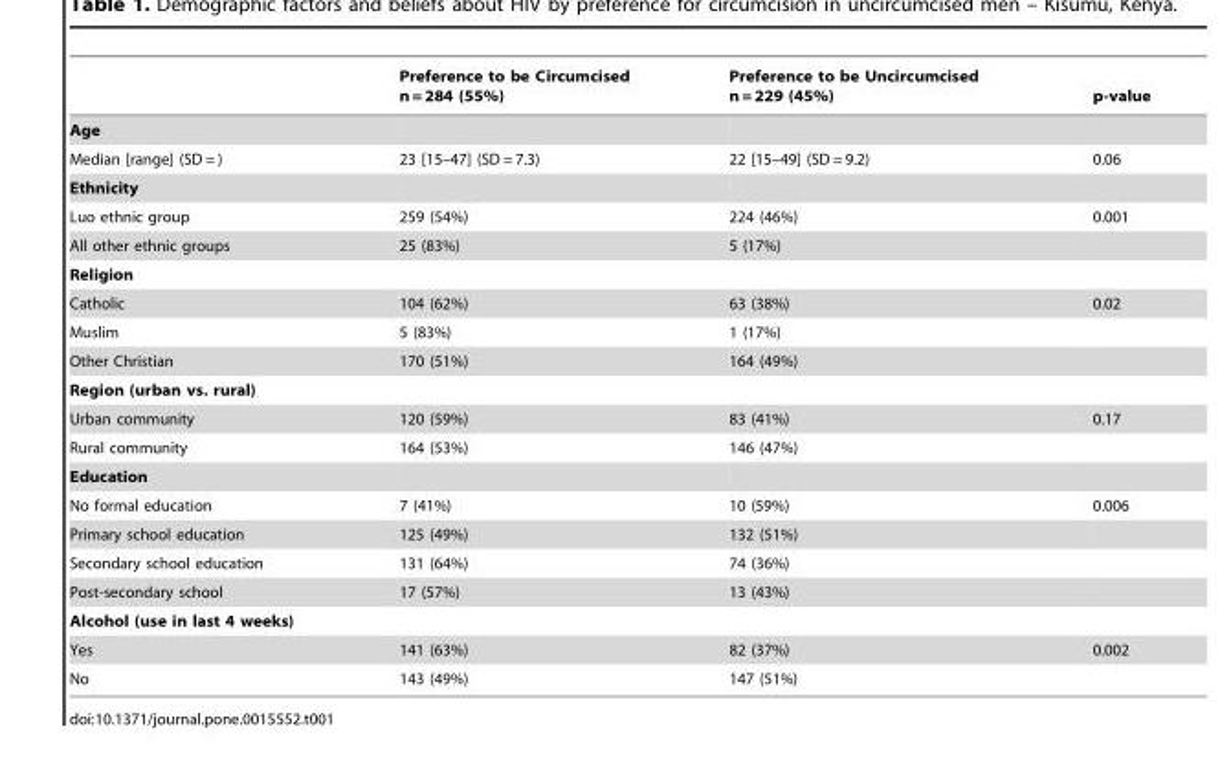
<table><thead><tr><td></td><td>Preference to be Circumcised n = 284 (55%)</td><td>Preference to be Uncircumcised n = 229 (45%)</td><td>p-value</td></tr></thead><tbody><tr><td colspan="4">Age</td></tr><tr><td>Median [range] (SD = )</td><td>23 [15–47] (SD = 7.3)</td><td>22 [15–49] (SD = 9.2)</td><td>0.06</td></tr><tr><td colspan="4">Ethnicity</td></tr><tr><td>Luo ethnic group</td><td>259 (54%)</td><td>224 (46%)</td><td>0.001</td></tr><tr><td>All other ethnic groups</td><td>25 (83%)</td><td>5 (17%)</td><td></td></tr><tr><td colspan="4">Religion</td></tr><tr><td>Catholic</td><td>104 (62%)</td><td>63 (38%)</td><td>0.02</td></tr><tr><td>Muslim</td><td>5 (83%)</td><td>1 (17%)</td><td></td></tr><tr><td>Other Christian</td><td>170 (51%)</td><td>164 (49%)</td><td></td></tr><tr><td colspan="4">Region (urban vs. rural)</td></tr><tr><td>Urban community</td><td>120 (59%)</td><td>83 (41%)</td><td>0.17</td></tr><tr><td>Rural community</td><td>164 (53%)</td><td>146 (47%)</td><td></td></tr><tr><td colspan="4">Education</td></tr><tr><td>No formal education</td><td>7 (41%)</td><td>10 (59%)</td><td>0.006</td></tr><tr><td>Primary school education</td><td>125 (49%)</td><td>132 (51%)</td><td></td></tr><tr><td>Secondary school education</td><td>131 (64%)</td><td>74 (36%)</td><td></td></tr><tr><td>Post-secondary school</td><td>17 (57%)</td><td>13 (43%)</td><td></td></tr><tr><td colspan="4">Alcohol (use in last 4 weeks)</td></tr><tr><td>Yes</td><td>141 (63%)</td><td>82 (37%)</td><td>0.002</td></tr><tr><td>No</td><td>143 (49%)</td><td>147 (51%)</td><td></td></tr></tbody></table>